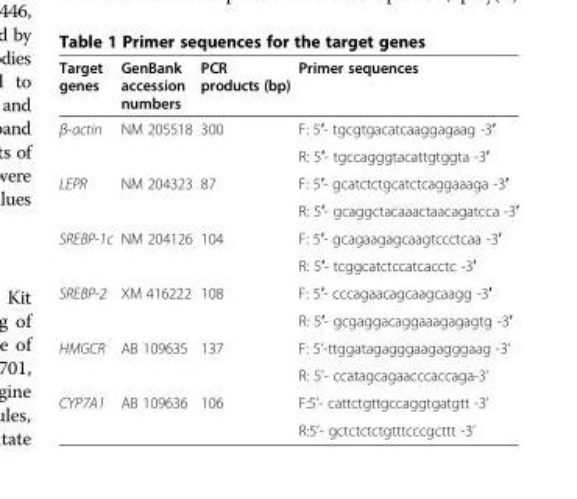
<table><thead><tr><td>Target genes</td><td>GenBank accession numbers</td><td>PCR products (bp)</td><td>Primer sequences</td></tr></thead><tbody><tr><td rowspan="2">β-actin</td><td>NM 205518</td><td>300</td><td>F: 5′- tgcgtgacatcaaggagaag -3′</td></tr><tr><td></td><td></td><td>R: 5′- tgccagggtacattgtggta -3′</td></tr><tr><td rowspan="2">LEPR</td><td>NM 204323</td><td>87</td><td>F: 5′- gcatctctgcatctcaggaaaga -3′</td></tr><tr><td></td><td></td><td>R: 5′- gcaggctacaaactaacagatcca -3′</td></tr><tr><td rowspan="2">SREBP-1c</td><td>NM 204126</td><td>104</td><td>F: 5′- gcagaagagcaagtccctcaa -3′</td></tr><tr><td></td><td></td><td>R: 5′- tcggcatctccatcacctc -3′</td></tr><tr><td rowspan="2">SREBP-2</td><td>XM 416222</td><td>108</td><td>F: 5′- cccagaacagcaagcaagg -3′</td></tr><tr><td></td><td></td><td>R: 5′- gcgaggacaggaaagagagtg -3′</td></tr><tr><td rowspan="2">HMGCR</td><td>AB 109635</td><td>137</td><td>F: 5’-ttggatagagggaagagggaag -3’</td></tr><tr><td></td><td></td><td>R: 5’- ccatagcagaacccaccaga-3’</td></tr><tr><td rowspan="2">CYP7A1</td><td>AB 109636</td><td>106</td><td>F:5’- cattctgttgccaggtgatgtt -3’</td></tr><tr><td></td><td></td><td>R:5’- gctctctctgtttcccgcttt -3’</td></tr></tbody></table>